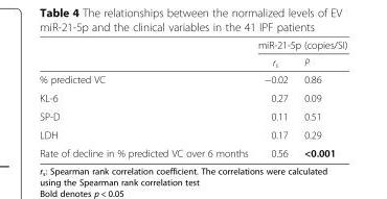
<table><thead><tr><td rowspan="2"></td><td colspan="2">miR-21-5p (copies/SI)</td></tr><tr><td>r<sub>s</sub></td><td>P</td></tr></thead><tbody><tr><td>% predicted VC</td><td>−0.02</td><td>0.86</td></tr><tr><td>KL-6</td><td>0.27</td><td>0.09</td></tr><tr><td>SP-D</td><td>0.11</td><td>0.51</td></tr><tr><td>LDH</td><td>0.17</td><td>0.29</td></tr><tr><td>Rate of decline in % predicted VC over 6 months</td><td>0.56</td><td>&lt;0.001</td></tr></tbody></table>